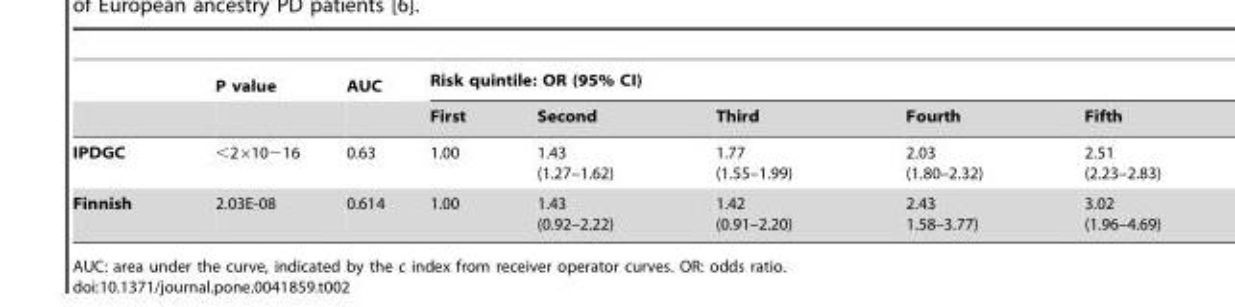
<table><thead><tr><td rowspan="2"></td><td rowspan="2">P value</td><td rowspan="2">AUC</td><td colspan="5">Risk quintile: OR (95% CI)</td></tr><tr><td>First</td><td>Second</td><td>Third</td><td>Fourth</td><td>Fifth</td></tr></thead><tbody><tr><td>IPDGC</td><td>&lt;2×10−16</td><td>0.63</td><td>1.00</td><td>1.43 (1.27–1.62)</td><td>1.77 (1.55–1.99)</td><td>2.03 (1.80–2.32)</td><td>2.51 (2.23–2.83)</td></tr><tr><td>Finnish</td><td>2.03E-08</td><td>0.614</td><td>1.00</td><td>1.43 (0.92–2.22)</td><td>1.42 (0.91–2.20)</td><td>2.43 1.58–3.77)</td><td>3.02 (1.96–4.69)</td></tr></tbody></table>